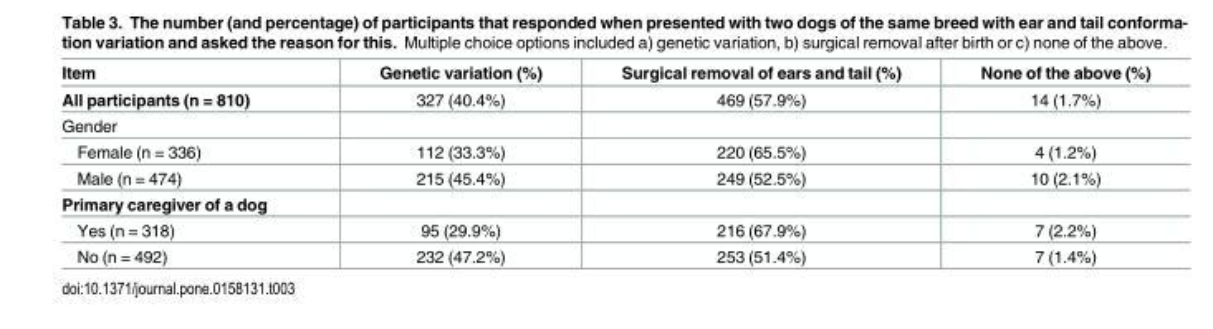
<table><thead><tr><td>Item</td><td>Genetic variation (%)</td><td>Surgical removal of ears and tail (%)</td><td>None of the above (%)</td></tr></thead><tbody><tr><td>All participants (n = 810)</td><td>327 (40.4%)</td><td>469 (57.9%)</td><td>14 (1.7%)</td></tr><tr><td colspan="4">Gender</td></tr><tr><td>Female (n = 336)</td><td>112 (33.3%)</td><td>220 (65.5%)</td><td>4 (1.2%)</td></tr><tr><td>Male (n = 474)</td><td>215 (45.4%)</td><td>249 (52.5%)</td><td>10 (2.1%)</td></tr><tr><td colspan="4">Primary caregiver of a dog</td></tr><tr><td>Yes (n = 318)</td><td>95 (29.9%)</td><td>216 (67.9%)</td><td>7 (2.2%)</td></tr><tr><td>No (n = 492)</td><td>232 (47.2%)</td><td>253 (51.4%)</td><td>7 (1.4%)</td></tr></tbody></table>